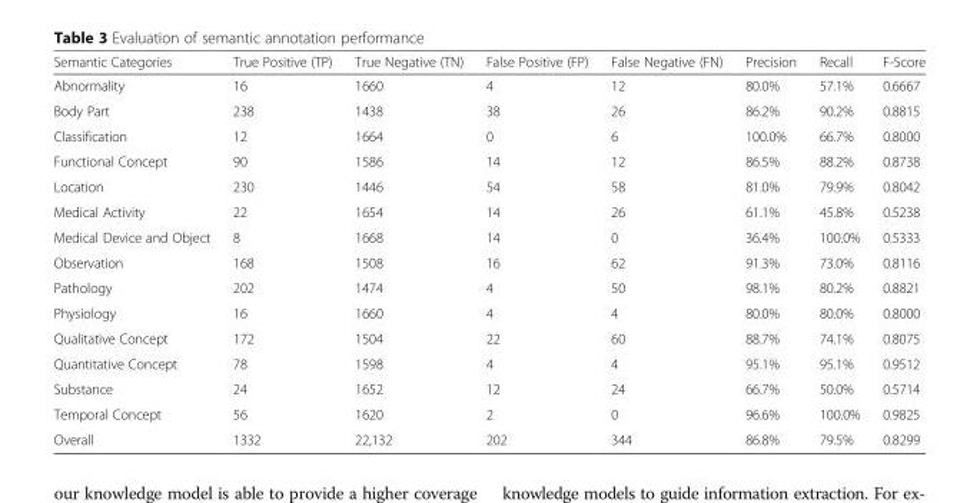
<table><thead><tr><td>Semantic Categories</td><td>True Positive (TP)</td><td>True Negative (TN)</td><td>False Positive (FP)</td><td>False Negative (FN)</td><td>Precision</td><td>Recall</td><td>F-Score</td></tr></thead><tbody><tr><td>Abnormality</td><td>16</td><td>1660</td><td>4</td><td>12</td><td>80.0%</td><td>57.1%</td><td>0.6667</td></tr><tr><td>Body Part</td><td>238</td><td>1438</td><td>38</td><td>26</td><td>86.2%</td><td>90.2%</td><td>0.8815</td></tr><tr><td>Classification</td><td>12</td><td>1664</td><td>0</td><td>6</td><td>100.0%</td><td>66.7%</td><td>0.8000</td></tr><tr><td>Functional Concept</td><td>90</td><td>1586</td><td>14</td><td>12</td><td>86.5%</td><td>88.2%</td><td>0.8738</td></tr><tr><td>Location</td><td>230</td><td>1446</td><td>54</td><td>58</td><td>81.0%</td><td>79.9%</td><td>0.8042</td></tr><tr><td>Medical Activity</td><td>22</td><td>1654</td><td>14</td><td>26</td><td>61.1%</td><td>45.8%</td><td>0.5238</td></tr><tr><td>Medical Device and Object</td><td>8</td><td>1668</td><td>14</td><td>0</td><td>36.4%</td><td>100.0%</td><td>0.5333</td></tr><tr><td>Observation</td><td>168</td><td>1508</td><td>16</td><td>62</td><td>91.3%</td><td>73.0%</td><td>0.8116</td></tr><tr><td>Pathology</td><td>202</td><td>1474</td><td>4</td><td>50</td><td>98.1%</td><td>80.2%</td><td>0.8821</td></tr><tr><td>Physiology</td><td>16</td><td>1660</td><td>4</td><td>4</td><td>80.0%</td><td>80.0%</td><td>0.8000</td></tr><tr><td>Qualitative Concept</td><td>172</td><td>1504</td><td>22</td><td>60</td><td>88.7%</td><td>74.1%</td><td>0.8075</td></tr><tr><td>Quantitative Concept</td><td>78</td><td>1598</td><td>4</td><td>4</td><td>95.1%</td><td>95.1%</td><td>0.9512</td></tr><tr><td>Substance</td><td>24</td><td>1652</td><td>12</td><td>24</td><td>66.7%</td><td>50.0%</td><td>0.5714</td></tr><tr><td>Temporal Concept</td><td>56</td><td>1620</td><td>2</td><td>0</td><td>96.6%</td><td>100.0%</td><td>0.9825</td></tr><tr><td>Overall</td><td>1332</td><td>22,132</td><td>202</td><td>344</td><td>86.8%</td><td>79.5%</td><td>0.8299</td></tr></tbody></table>